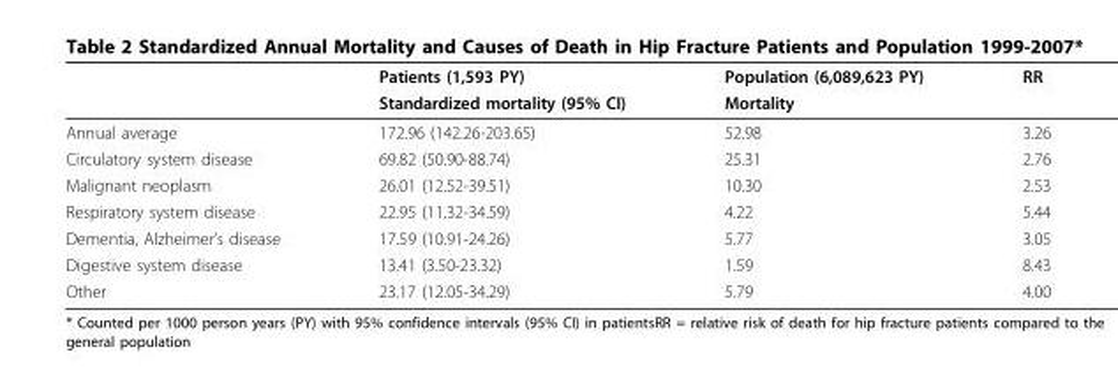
<table><thead><tr><td rowspan="2"></td><td rowspan="2">Patients (1,593 PY) Standardized mortality (95% CI)</td><td rowspan="2">Population (6,089,623 PY) Mortality</td><td rowspan="2">RR</td></tr><tr></tr></thead><tbody><tr><td>Annual average</td><td>172.96 (142.26-203.65)</td><td>52.98</td><td>3.26</td></tr><tr><td>Circulatory system disease</td><td>69.82 (50.90-88.74)</td><td>25.31</td><td>2.76</td></tr><tr><td>Malignant neoplasm</td><td>26.01 (12.52-39.51)</td><td>10.30</td><td>2.53</td></tr><tr><td>Respiratory system disease</td><td>22.95 (11.32-34.59)</td><td>4.22</td><td>5.44</td></tr><tr><td>Dementia, Alzheimer’s disease</td><td>17.59 (10.91-24.26)</td><td>5.77</td><td>3.05</td></tr><tr><td>Digestive system disease</td><td>13.41 (3.50-23.32)</td><td>1.59</td><td>8.43</td></tr><tr><td>Other</td><td>23.17 (12.05-34.29)</td><td>5.79</td><td>4.00</td></tr></tbody></table>